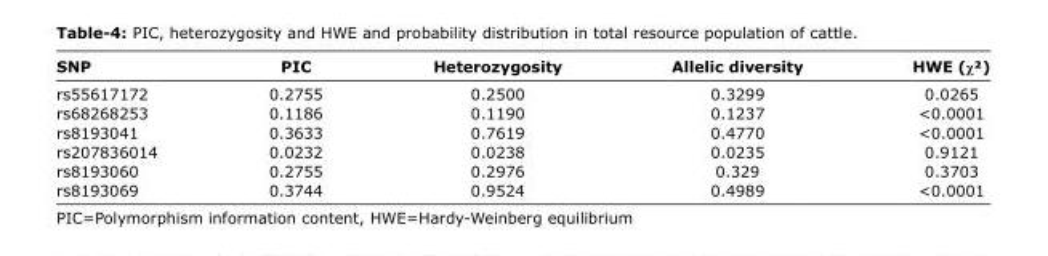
<table><thead><tr><td>SNP</td><td>PIC</td><td>Heterozygosity</td><td>Allelic diversity</td><td>HWE (χ²)</td></tr></thead><tbody><tr><td>rs55617172</td><td>0.2755</td><td>0.2500</td><td>0.3299</td><td>0.0265</td></tr><tr><td>rs68268253</td><td>0.1186</td><td>0.1190</td><td>0.1237</td><td>&lt;0.0001</td></tr><tr><td>rs8193041</td><td>0.3633</td><td>0.7619</td><td>0.4770</td><td>&lt;0.0001</td></tr><tr><td>rs207836014</td><td>0.0232</td><td>0.0238</td><td>0.0235</td><td>0.9121</td></tr><tr><td>rs8193060</td><td>0.2755</td><td>0.2976</td><td>0.329</td><td>0.3703</td></tr><tr><td>rs8193069</td><td>0.3744</td><td>0.9524</td><td>0.4989</td><td>&lt;0.0001</td></tr></tbody></table>